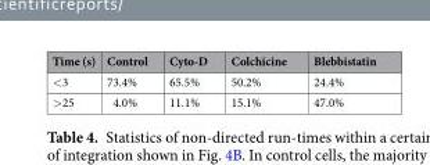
<table><thead><tr><td>Time (s)</td><td>Control</td><td>Cyto-D</td><td>Colchicine</td><td>Blebbistatin</td></tr></thead><tbody><tr><td>&lt;3</td><td>73.4%</td><td>65.5%</td><td>50.2%</td><td>24.4%</td></tr><tr><td>&gt;25</td><td>4.0%</td><td>11.1%</td><td>15.1%</td><td>47.0%</td></tr></tbody></table>